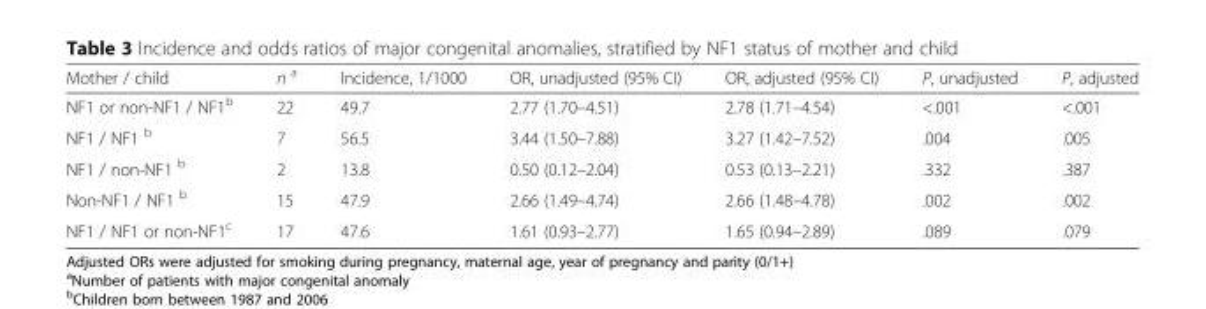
<table><thead><tr><td>Mother / child</td><td>n <sup>a</sup></td><td>Incidence, 1/1000</td><td>OR, unadjusted (95% CI)</td><td>OR, adjusted (95% CI)</td><td>P, unadjusted</td><td>P, adjusted</td></tr></thead><tbody><tr><td>NF1 or non-NF1 / NF1<sup>b</sup></td><td>22</td><td>49.7</td><td>2.77 (1.70–4.51)</td><td>2.78 (1.71–4.54)</td><td>&lt;.001</td><td>&lt;.001</td></tr><tr><td>NF1 / NF1 <sup>b</sup></td><td>7</td><td>56.5</td><td>3.44 (1.50–7.88)</td><td>3.27 (1.42–7.52)</td><td>.004</td><td>.005</td></tr><tr><td>NF1 / non-NF1 <sup>b</sup></td><td>2</td><td>13.8</td><td>0.50 (0.12–2.04)</td><td>0.53 (0.13–2.21)</td><td>.332</td><td>.387</td></tr><tr><td>Non-NF1 / NF1 <sup>b</sup></td><td>15</td><td>47.9</td><td>2.66 (1.49–4.74)</td><td>2.66 (1.48–4.78)</td><td>.002</td><td>.002</td></tr><tr><td>NF1 / NF1 or non-NF1<sup>c</sup></td><td>17</td><td>47.6</td><td>1.61 (0.93–2.77)</td><td>1.65 (0.94–2.89)</td><td>.089</td><td>.079</td></tr></tbody></table>